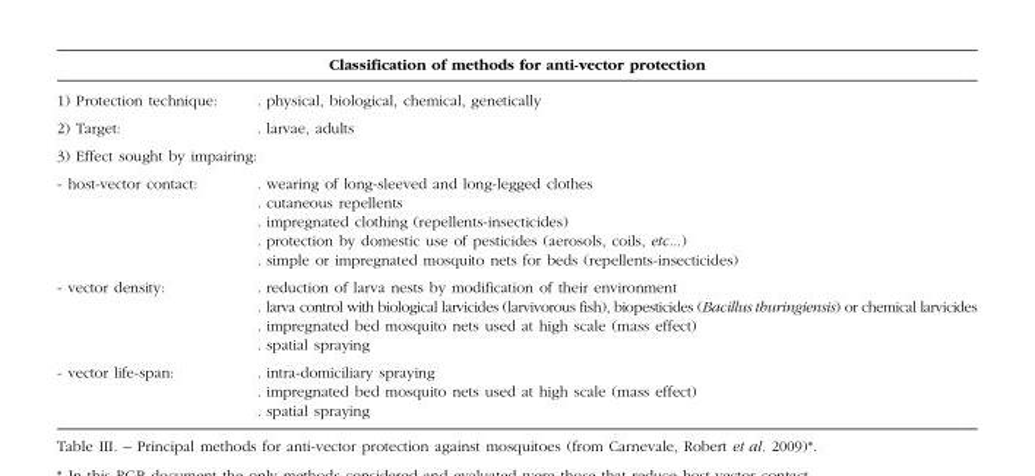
<table><thead><tr><td></td><td>Classification of methods for anti-vector protection</td></tr></thead><tbody><tr><td>1) Protection technique:</td><td>. physical, biological, chemical, genetically</td></tr><tr><td>2) Target:</td><td>. larvae, adults</td></tr><tr><td colspan="2">3) Effect sought by impairing:</td></tr><tr><td rowspan="5">- host-vector contact:</td><td>. wearing of long-sleeved and long-legged clothes</td></tr><tr><td>. cutaneous repellents</td></tr><tr><td>. impregnated clothing (repellents-insecticides)</td></tr><tr><td>. protection by domestic use of pesticides (aerosols, coils, etc...)</td></tr><tr><td>. simple or impregnated mosquito nets for beds (repellents-insecticides)</td></tr><tr><td rowspan="4">- vector density:</td><td>. reduction of larva nests by modification of their environment</td></tr><tr><td>. larva control with biological larvicides (larvivorous fish), biopesticides (Bacillus thuringiensis) or chemical larvicides</td></tr><tr><td>. impregnated bed mosquito nets used at high scale (mass effect)</td></tr><tr><td>. spatial spraying</td></tr><tr><td rowspan="3">- vector life-span:</td><td>. intra-domiciliary spraying</td></tr><tr><td>. impregnated bed mosquito nets used at high scale (mass effect)</td></tr><tr><td>. spatial spraying</td></tr></tbody></table>